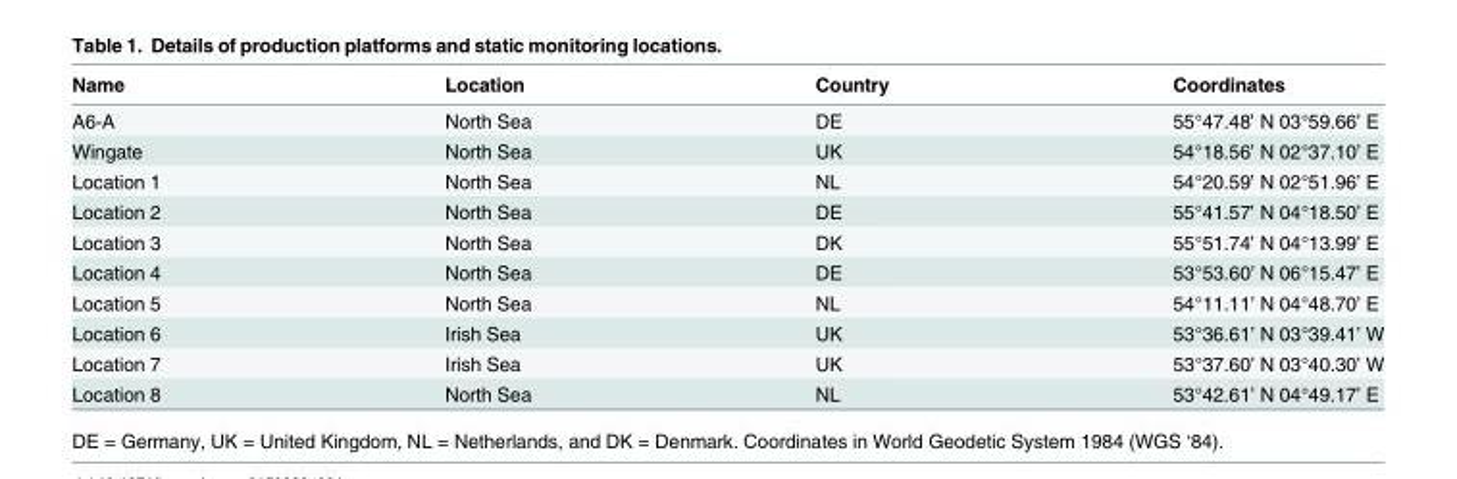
<table><thead><tr><td>Name</td><td>Location</td><td>Country</td><td>Coordinates</td></tr></thead><tbody><tr><td>A6-A</td><td>North Sea</td><td>DE</td><td>55°47.48’ N 03°59.66’ E</td></tr><tr><td>Wingate</td><td>North Sea</td><td>UK</td><td>54°18.56’ N 02°37.10’ E</td></tr><tr><td>Location 1</td><td>North Sea</td><td>NL</td><td>54°20.59’ N 02°51.96’ E</td></tr><tr><td>Location 2</td><td>North Sea</td><td>DE</td><td>55°41.57’ N 04°18.50’ E</td></tr><tr><td>Location 3</td><td>North Sea</td><td>DK</td><td>55°51.74’ N 04°13.99’ E</td></tr><tr><td>Location 4</td><td>North Sea</td><td>DE</td><td>53°53.60’ N 06°15.47’ E</td></tr><tr><td>Location 5</td><td>North Sea</td><td>NL</td><td>54°11.11’ N 04°48.70’ E</td></tr><tr><td>Location 6</td><td>Irish Sea</td><td>UK</td><td>53°36.61’ N 03°39.41’ W</td></tr><tr><td>Location 7</td><td>Irish Sea</td><td>UK</td><td>53°37.60’ N 03°40.30’ W</td></tr><tr><td>Location 8</td><td>North Sea</td><td>NL</td><td>53°42.61’ N 04°49.17’ E</td></tr></tbody></table>